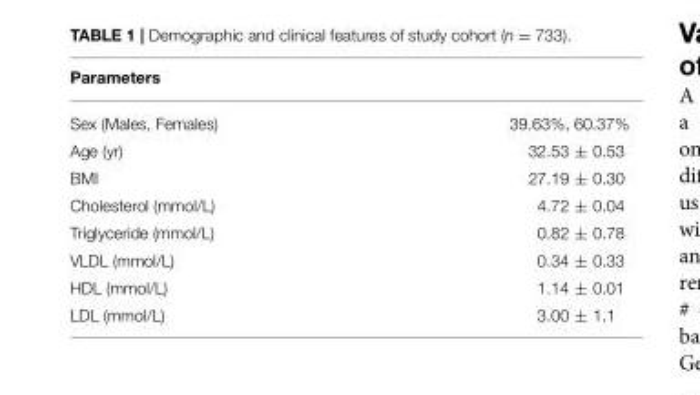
<table><thead><tr><td>Parameters</td><td></td></tr></thead><tbody><tr><td>Sex (Males, Females)</td><td>39.63%, 60.37%</td></tr><tr><td>Age (yr)</td><td>32.53 ± 0.53</td></tr><tr><td>BMI</td><td>27.19 ± 0.30</td></tr><tr><td>Cholesterol (mmol/L)</td><td>4.72 ± 0.04</td></tr><tr><td>Triglyceride (mmol/L)</td><td>0.82 ± 0.78</td></tr><tr><td>VLDL (mmol/L)</td><td>0.34 ± 0.33</td></tr><tr><td>HDL (mmol/L)</td><td>1.14 ± 0.01</td></tr><tr><td>LDL (mmol/L)</td><td>3.00 ± 1.1</td></tr></tbody></table>